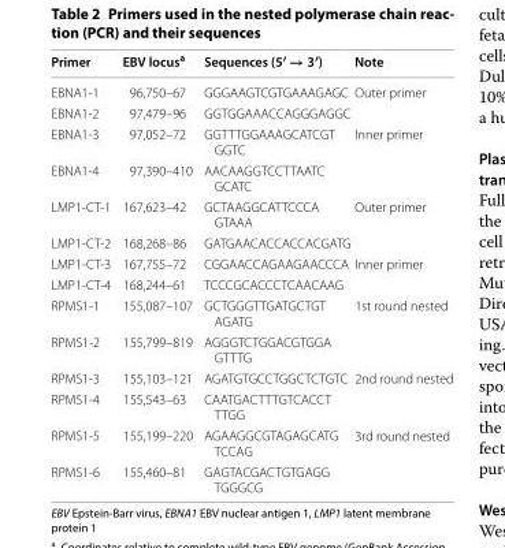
<table><thead><tr><td>Primer</td><td>EBV locus<sup>a</sup></td><td>Sequences (5′ → 3′)</td><td>Note</td></tr></thead><tbody><tr><td>EBNA1‑1</td><td>96,750–67</td><td>GGGAAGTCGTGAAAGAGC</td><td rowspan="2">Outer primer</td></tr><tr><td>EBNA1‑2</td><td>97,479–96</td><td>GGTGGAAACCAGGGAGGC</td></tr><tr><td>EBNA1‑3</td><td>97,052–72</td><td>GGTTTGGAAAGCATCGT GGTC</td><td rowspan="2">Inner primer</td></tr><tr><td>EBNA1‑4</td><td>97,390–410</td><td>AACAAGGTCCTTAATC GCATC</td></tr><tr><td>LMP1‑CT‑1</td><td>167,623–42</td><td>GCTAAGGCATTCCCA GTAAA</td><td rowspan="2">Outer primer</td></tr><tr><td>LMP1‑CT‑2</td><td>168,268–86</td><td>GATGAACACCACCACGATG</td></tr><tr><td>LMP1‑CT‑3</td><td>167,755–72</td><td>CGGAACCAGAAGAACCCA</td><td rowspan="2">Inner primer</td></tr><tr><td>LMP1‑CT‑4</td><td>168,244–61</td><td>TCCCGCACCCTCAACAAG</td></tr><tr><td>RPMS1‑1</td><td>155,087–107</td><td>GCTGGGTTGATGCTGT AGATG</td><td rowspan="2">1st round nested</td></tr><tr><td>RPMS1‑2</td><td>155,799–819</td><td>AGGGTCTGGACGTGGA GTTTG</td></tr><tr><td>RPMS1‑3</td><td>155,103–121</td><td>AGATGTGCCTGGCTCTGTC</td><td rowspan="2">2nd round nested</td></tr><tr><td>RPMS1‑4</td><td>155,543–63</td><td>CAATGACTTTGTCACCT TTGG</td></tr><tr><td>RPMS1‑5</td><td>155,199–220</td><td>AGAAGGCGTAGAGCATG TCCAG</td><td rowspan="2">3rd round nested</td></tr><tr><td>RPMS1‑6</td><td>155,460–81</td><td>GAGTACGACTGTGAGG TGGGCG</td></tr></tbody></table>